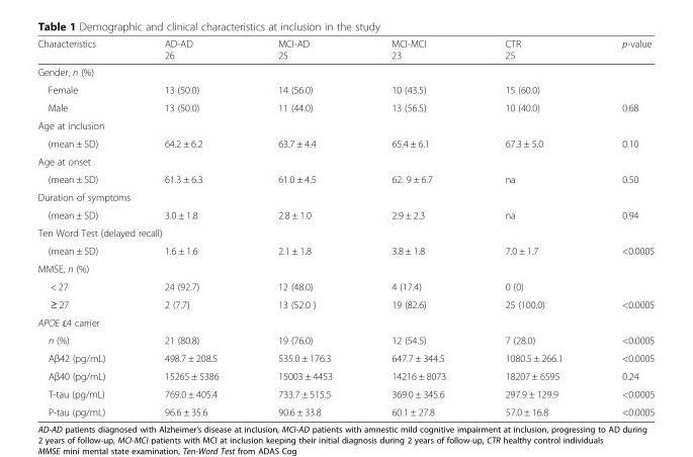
<table><thead><tr><td>Characteristics</td><td>AD-AD 26</td><td>MCI-AD 25</td><td>MCI-MCI 23</td><td>CTR 25</td><td>p-value</td></tr></thead><tbody><tr><td colspan="6">Gender, n (%)</td></tr><tr><td>Female</td><td>13 (50.0)</td><td>14 (56.0)</td><td>10 (43.5)</td><td>15 (60.0)</td><td></td></tr><tr><td>Male</td><td>13 (50.0)</td><td>11 (44.0)</td><td>13 (56.5)</td><td>10 (40.0)</td><td>0.68</td></tr><tr><td colspan="6">Age at inclusion</td></tr><tr><td>(mean ± SD)</td><td>64.2 ± 6.2</td><td>63.7 ± 4.4</td><td>65.4 ± 6.1</td><td>67.3 ± 5.0</td><td>0.10</td></tr><tr><td colspan="6">Age at onset</td></tr><tr><td>(mean ± SD)</td><td>61.3 ± 6.3</td><td>61.0 ± 4.5</td><td>62. 9 ± 6.7</td><td>na</td><td>0.50</td></tr><tr><td colspan="6">Duration of symptoms</td></tr><tr><td>(mean ± SD)</td><td>3.0 ± 1.8</td><td>2.8 ± 1.0</td><td>2.9 ± 2.3</td><td>na</td><td>0.94</td></tr><tr><td colspan="6">Ten Word Test (delayed recall)</td></tr><tr><td>(mean ± SD)</td><td>1.6 ± 1.6</td><td>2.1 ± 1.8</td><td>3.8 ± 1.8</td><td>7.0 ± 1.7</td><td>&lt;0.0005</td></tr><tr><td colspan="6">MMSE, n (%)</td></tr><tr><td>&lt; 27</td><td>24 (92.7)</td><td>12 (48.0)</td><td>4 (17.4)</td><td>0 (0)</td><td></td></tr><tr><td>≥ 27</td><td>2 (7.7)</td><td>13 (52.0 )</td><td>19 (82.6)</td><td>25 (100.0)</td><td>&lt;0.0005</td></tr><tr><td colspan="6">APOE ɛ4 carrier</td></tr><tr><td>n (%)</td><td>21 (80.8)</td><td>19 (76.0)</td><td>12 (54.5)</td><td>7 (28.0)</td><td>&lt;0.0005</td></tr><tr><td>Aβ42 (pg/mL)</td><td>498.7 ± 208.5</td><td>535.0 ± 176.3</td><td>647.7 ± 344.5</td><td>1080.5 ± 266.1</td><td>&lt;0.0005</td></tr><tr><td>Aβ40 (pg/mL)</td><td>15265 ± 5386</td><td>15003 ± 4453</td><td>14216 ± 8073</td><td>18207 ± 6595</td><td>0.24</td></tr><tr><td>T-tau (pg/mL)</td><td>769.0 ± 405.4</td><td>733.7 ± 515.5</td><td>369.0 ± 345.6</td><td>297.9 ± 129.9</td><td>&lt;0.0005</td></tr><tr><td>P-tau (pg/mL)</td><td>96.6 ± 35.6</td><td>90.6 ± 33.8</td><td>60.1 ± 27.8</td><td>57.0 ± 16.8</td><td>&lt;0.0005</td></tr></tbody></table>